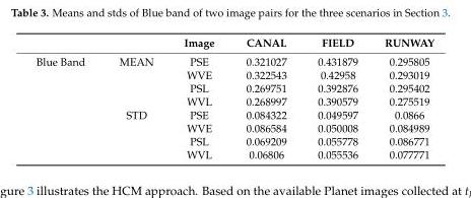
<table><thead><tr><td></td><td></td><td>Image</td><td>CANAL</td><td>FIELD</td><td>RUNWAY</td></tr></thead><tbody><tr><td rowspan="8">Blue Band</td><td>MEAN</td><td>PSE</td><td>0.321027</td><td>0.431879</td><td>0.295805</td></tr><tr><td></td><td>WVE</td><td>0.322543</td><td>0.42958</td><td>0.293019</td></tr><tr><td></td><td>PSL</td><td>0.269751</td><td>0.392876</td><td>0.295402</td></tr><tr><td></td><td>WVL</td><td>0.268997</td><td>0.390579</td><td>0.275519</td></tr><tr><td>STD</td><td>PSE</td><td>0.084322</td><td>0.049597</td><td>0.0866</td></tr><tr><td></td><td>WVE</td><td>0.086584</td><td>0.050008</td><td>0.084989</td></tr><tr><td></td><td>PSL</td><td>0.069209</td><td>0.055778</td><td>0.086771</td></tr><tr><td></td><td>WVL</td><td>0.06806</td><td>0.055536</td><td>0.077771</td></tr></tbody></table>